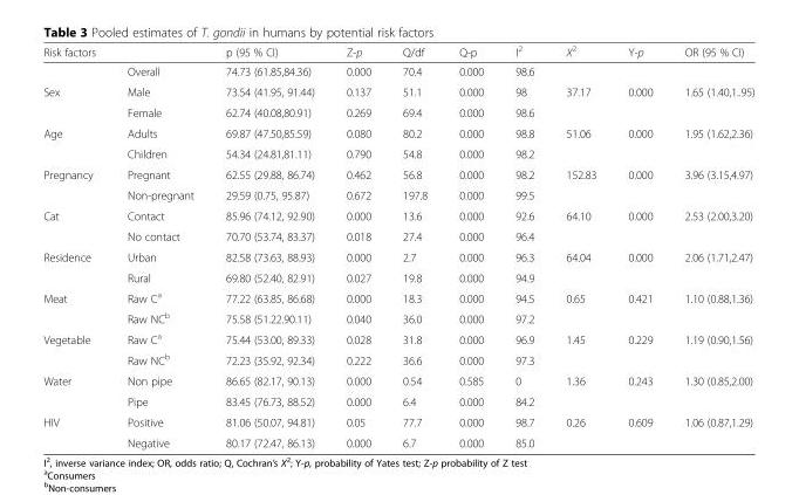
<table><thead><tr><td>Risk factors</td><td></td><td>p (95 % CI)</td><td>Z-p</td><td>Q/df</td><td>Q-p</td><td>I<sup>2</sup></td><td>X<sup>2</sup></td><td>Y-p</td><td>OR (95 % CI)</td></tr></thead><tbody><tr><td></td><td>Overall</td><td>74.73 (61.85,84.36)</td><td>0.000</td><td>70.4</td><td>0.000</td><td>98.6</td><td></td><td></td><td></td></tr><tr><td rowspan="2">Sex</td><td>Male</td><td>73.54 (41.95, 91.44)</td><td>0.137</td><td>51.1</td><td>0.000</td><td>98</td><td>37.17</td><td>0.000</td><td>1.65 (1.40,1..95)</td></tr><tr><td>Female</td><td>62.74 (40.08,80.91)</td><td>0.269</td><td>69.4</td><td>0.000</td><td>98.6</td><td></td><td></td><td></td></tr><tr><td rowspan="2">Age</td><td>Adults</td><td>69.87 (47.50,85.59)</td><td>0.080</td><td>80.2</td><td>0.000</td><td>98.8</td><td>51.06</td><td>0.000</td><td>1.95 (1.62,2.36)</td></tr><tr><td>Children</td><td>54.34 (24.81,81.11)</td><td>0.790</td><td>54.8</td><td>0.000</td><td>98.2</td><td></td><td></td><td></td></tr><tr><td rowspan="2">Pregnancy</td><td>Pregnant</td><td>62.55 (29.88, 86.74)</td><td>0.462</td><td>56.8</td><td>0.000</td><td>98.2</td><td>152.83</td><td>0.000</td><td>3.96 (3.15,4.97)</td></tr><tr><td>Non-pregnant</td><td>29.59 (0.75, 95.87)</td><td>0.672</td><td>197.8</td><td>0.000</td><td>99.5</td><td></td><td></td><td></td></tr><tr><td rowspan="2">Cat</td><td>Contact</td><td>85.96 (74.12, 92.90)</td><td>0.000</td><td>13.6</td><td>0.000</td><td>92.6</td><td>64.10</td><td>0.000</td><td>2.53 (2.00,3.20)</td></tr><tr><td>No contact</td><td>70.70 (53.74, 83.37)</td><td>0.018</td><td>27.4</td><td>0.000</td><td>96.4</td><td></td><td></td><td></td></tr><tr><td rowspan="2">Residence</td><td>Urban</td><td>82.58 (73.63, 88.93)</td><td>0.000</td><td>2.7</td><td>0.000</td><td>96.3</td><td>64.04</td><td>0.000</td><td>2.06 (1.71,2.47)</td></tr><tr><td>Rural</td><td>69.80 (52.40, 82.91)</td><td>0.027</td><td>19.8</td><td>0.000</td><td>94.9</td><td></td><td></td><td></td></tr><tr><td rowspan="2">Meat</td><td>Raw C<sup>a</sup></td><td>77.22 (63.85, 86.68)</td><td>0.000</td><td>18.3</td><td>0.000</td><td>94.5</td><td>0.65</td><td>0.421</td><td>1.10 (0.88,1.36)</td></tr><tr><td>Raw NC<sup>b</sup></td><td>75.58 (51.22.90.11)</td><td>0.040</td><td>36.0</td><td>0.000</td><td>97.2</td><td></td><td></td><td></td></tr><tr><td rowspan="2">Vegetable</td><td>Raw C<sup>a</sup></td><td>75.44 (53.00, 89.33)</td><td>0.028</td><td>31.8</td><td>0.000</td><td>96.9</td><td>1.45</td><td>0.229</td><td>1.19 (0.90,1.56)</td></tr><tr><td>Raw NC<sup>b</sup></td><td>72.23 (35.92, 92.34)</td><td>0.222</td><td>36.6</td><td>0.000</td><td>97.3</td><td></td><td></td><td></td></tr><tr><td rowspan="2">Water</td><td>Non pipe</td><td>86.65 (82.17, 90.13)</td><td>0.000</td><td>0.54</td><td>0.585</td><td>0</td><td>1.36</td><td>0.243</td><td>1.30 (0.85,2.00)</td></tr><tr><td>Pipe</td><td>83.45 (76.73, 88.52)</td><td>0.000</td><td>6.4</td><td>0.000</td><td>84.2</td><td></td><td></td><td></td></tr><tr><td rowspan="2">HIV</td><td>Positive</td><td>81.06 (50.07, 94.81)</td><td>0.05</td><td>77.7</td><td>0.000</td><td>98.7</td><td>0.26</td><td>0.609</td><td>1.06 (0.87,1.29)</td></tr><tr><td>Negative</td><td>80.17 (72.47, 86.13)</td><td>0.000</td><td>6.7</td><td>0.000</td><td>85.0</td><td></td><td></td><td></td></tr></tbody></table>